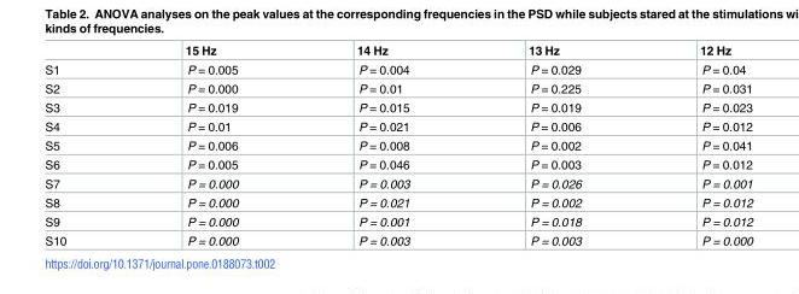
<table><thead><tr><td></td><td>15 Hz</td><td>14 Hz</td><td>13 Hz</td><td>12 Hz</td></tr></thead><tbody><tr><td>S1</td><td>P = 0.005</td><td>P = 0.004</td><td>P = 0.029</td><td>P = 0.04</td></tr><tr><td>S2</td><td>P = 0.000</td><td>P = 0.01</td><td>P = 0.225</td><td>P = 0.031</td></tr><tr><td>S3</td><td>P = 0.019</td><td>P = 0.015</td><td>P = 0.019</td><td>P = 0.023</td></tr><tr><td>S4</td><td>P = 0.01</td><td>P = 0.021</td><td>P = 0.006</td><td>P = 0.012</td></tr><tr><td>S5</td><td>P = 0.006</td><td>P = 0.008</td><td>P = 0.002</td><td>P = 0.041</td></tr><tr><td>S6</td><td>P = 0.005</td><td>P = 0.046</td><td>P = 0.003</td><td>P = 0.012</td></tr><tr><td>S7</td><td>P = 0.000</td><td>P = 0.003</td><td>P = 0.026</td><td>P = 0.001</td></tr><tr><td>S8</td><td>P = 0.000</td><td>P = 0.021</td><td>P = 0.002</td><td>P = 0.012</td></tr><tr><td>S9</td><td>P = 0.000</td><td>P = 0.001</td><td>P = 0.018</td><td>P = 0.012</td></tr><tr><td>S10</td><td>P = 0.000</td><td>P = 0.003</td><td>P = 0.003</td><td>P = 0.000</td></tr></tbody></table>